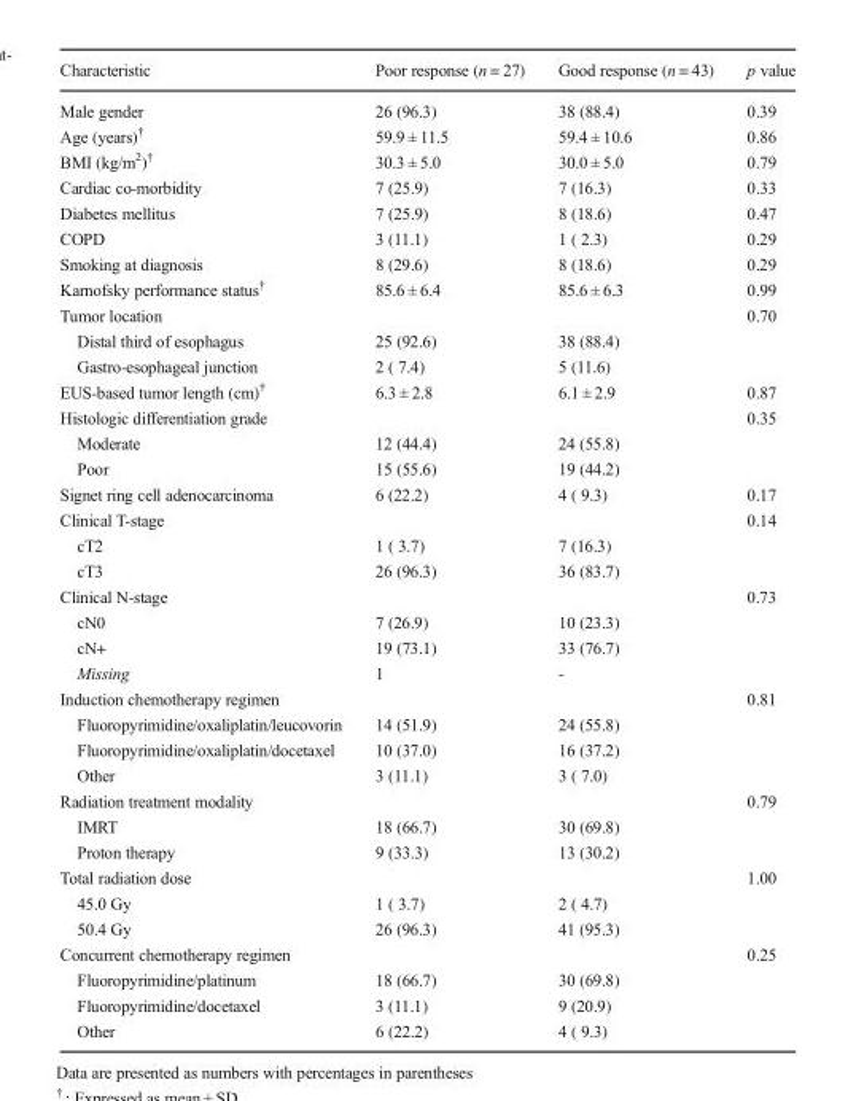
<table><thead><tr><td>Characteristic</td><td>Poor response (n = 27)</td><td>Good response (n = 43)</td><td>p value</td></tr></thead><tbody><tr><td>Male gender</td><td>26 (96.3)</td><td>38 (88.4)</td><td>0.39</td></tr><tr><td>Age (years)<sup>†</sup></td><td>59.9 ± 11.5</td><td>59.4 ± 10.6</td><td>0.86</td></tr><tr><td>BMI (kg/m<sup>2</sup>)<sup>†</sup></td><td>30.3 ± 5.0</td><td>30.0 ± 5.0</td><td>0.79</td></tr><tr><td>Cardiac co-morbidity</td><td>7 (25.9)</td><td>7 (16.3)</td><td>0.33</td></tr><tr><td>Diabetes mellitus</td><td>7 (25.9)</td><td>8 (18.6)</td><td>0.47</td></tr><tr><td>COPD</td><td>3 (11.1)</td><td>1 ( 2.3)</td><td>0.29</td></tr><tr><td>Smoking at diagnosis</td><td>8 (29.6)</td><td>8 (18.6)</td><td>0.29</td></tr><tr><td>Karnofsky performance status<sup>†</sup></td><td>85.6 ± 6.4</td><td>85.6 ± 6.3</td><td>0.99</td></tr><tr><td>Tumor location</td><td></td><td></td><td>0.70</td></tr><tr><td>Distal third of esophagus</td><td>25 (92.6)</td><td>38 (88.4)</td><td></td></tr><tr><td>Gastro-esophageal junction</td><td>2 ( 7.4)</td><td>5 (11.6)</td><td></td></tr><tr><td>EUS-based tumor length (cm)<sup>†</sup></td><td>6.3 ± 2.8</td><td>6.1 ± 2.9</td><td>0.87</td></tr><tr><td>Histologic differentiation grade</td><td></td><td></td><td>0.35</td></tr><tr><td>Moderate</td><td>12 (44.4)</td><td>24 (55.8)</td><td></td></tr><tr><td>Poor</td><td>15 (55.6)</td><td>19 (44.2)</td><td></td></tr><tr><td>Signet ring cell adenocarcinoma</td><td>6 (22.2)</td><td>4 ( 9.3)</td><td>0.17</td></tr><tr><td>Clinical T-stage</td><td></td><td></td><td>0.14</td></tr><tr><td>cT2</td><td>1 ( 3.7)</td><td>7 (16.3)</td><td></td></tr><tr><td>cT3</td><td>26 (96.3)</td><td>36 (83.7)</td><td></td></tr><tr><td>Clinical N-stage</td><td></td><td></td><td>0.73</td></tr><tr><td>cN0</td><td>7 (26.9)</td><td>10 (23.3)</td><td></td></tr><tr><td>cN+</td><td>19 (73.1)</td><td>33 (76.7)</td><td></td></tr><tr><td>Missing</td><td>1</td><td>-</td><td></td></tr><tr><td>Induction chemotherapy regimen</td><td></td><td></td><td>0.81</td></tr><tr><td>Fluoropyrimidine/oxaliplatin/leucovorin</td><td>14 (51.9)</td><td>24 (55.8)</td><td></td></tr><tr><td>Fluoropyrimidine/oxaliplatin/docetaxel</td><td>10 (37.0)</td><td>16 (37.2)</td><td></td></tr><tr><td>Other</td><td>3 (11.1)</td><td>3 ( 7.0)</td><td></td></tr><tr><td>Radiation treatment modality</td><td></td><td></td><td>0.79</td></tr><tr><td>IMRT</td><td>18 (66.7)</td><td>30 (69.8)</td><td></td></tr><tr><td>Proton therapy</td><td>9 (33.3)</td><td>13 (30.2)</td><td></td></tr><tr><td>Total radiation dose</td><td></td><td></td><td>1.00</td></tr><tr><td>45.0 Gy</td><td>1 ( 3.7)</td><td>2 ( 4.7)</td><td></td></tr><tr><td>50.4 Gy</td><td>26 (96.3)</td><td>41 (95.3)</td><td></td></tr><tr><td>Concurrent chemotherapy regimen</td><td></td><td></td><td>0.25</td></tr><tr><td>Fluoropyrimidine/platinum</td><td>18 (66.7)</td><td>30 (69.8)</td><td></td></tr><tr><td>Fluoropyrimidine/docetaxel</td><td>3 (11.1)</td><td>9 (20.9)</td><td></td></tr><tr><td>Other</td><td>6 (22.2)</td><td>4 ( 9.3)</td><td></td></tr></tbody></table>